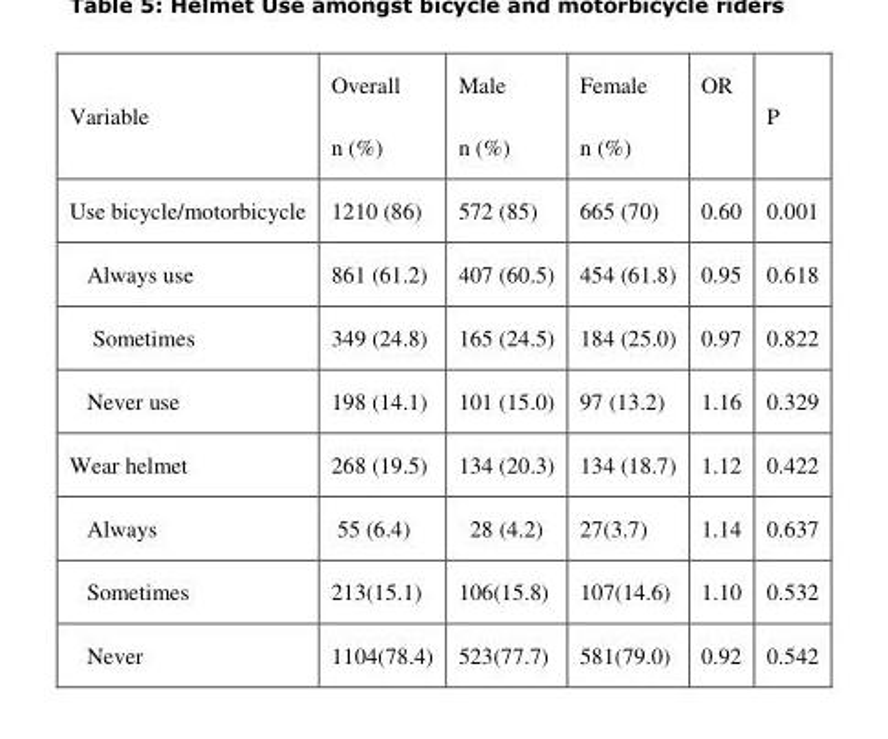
<table><thead><tr><td>Variable</td><td>Overall n (%)</td><td>Male n (%)</td><td>Female n (%)</td><td>OR</td><td>P</td></tr></thead><tbody><tr><td>Use bicycle/motorbicycle</td><td>1210 (86)</td><td>572 (85)</td><td>665 (70)</td><td>0.60</td><td>0.001</td></tr><tr><td>Always use</td><td>861 (61.2)</td><td>407 (60.5)</td><td>454 (61.8)</td><td>0.95</td><td>0.618</td></tr><tr><td>Sometimes</td><td>349 (24.8)</td><td>165 (24.5)</td><td>184 (25.0)</td><td>0.97</td><td>0.822</td></tr><tr><td>Never use</td><td>198 (14.1)</td><td>101 (15.0)</td><td>97 (13.2)</td><td>1.16</td><td>0.329</td></tr><tr><td>Wear helmet</td><td>268 (19.5)</td><td>134 (20.3)</td><td>134 (18.7)</td><td>1.12</td><td>0.422</td></tr><tr><td>Always</td><td>55 (6.4)</td><td>28 (4.2)</td><td>27(3.7)</td><td>1.14</td><td>0.637</td></tr><tr><td>Sometimes</td><td>213(15.1)</td><td>106(15.8)</td><td>107(14.6)</td><td>1.10</td><td>0.532</td></tr><tr><td>Never</td><td>1104(78.4)</td><td>523(77.7)</td><td>581(79.0)</td><td>0.92</td><td>0.542</td></tr></tbody></table>